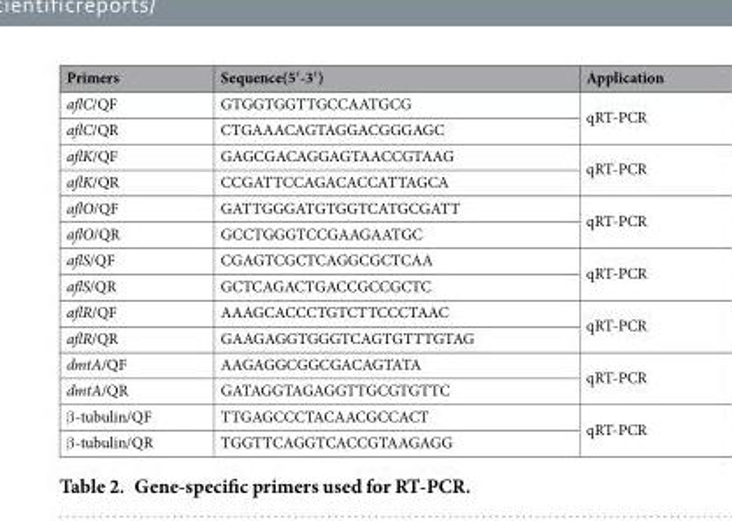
<table><thead><tr><td>Primers</td><td>Sequence(5′ -3′ )</td><td>Application</td></tr></thead><tbody><tr><td>aflC/QF</td><td>GTGGTGGTTGCCAATGCG</td><td rowspan="2">qRT-PCR</td></tr><tr><td>aflC/QR</td><td>CTGAAACAGTAGGACGGGAGC</td></tr><tr><td>aflK/QF</td><td>GAGCGACAGGAGTAACCGTAAG</td><td rowspan="2">qRT-PCR</td></tr><tr><td>aflK/QR</td><td>CCGATTCCAGACACCATTAGCA</td></tr><tr><td>aflO/QF</td><td>GATTGGGATGTGGTCATGCGATT</td><td rowspan="2">qRT-PCR</td></tr><tr><td>aflO/QR</td><td>GCCTGGGTCCGAAGAATGC</td></tr><tr><td>aflS/QF</td><td>CGAGTCGCTCAGGCGCTCAA</td><td rowspan="2">qRT-PCR</td></tr><tr><td>aflS/QR</td><td>GCTCAGACTGACCGCCGCTC</td></tr><tr><td>aflR/QF</td><td>AAAGCACCCTGTCTTCCCTAAC</td><td rowspan="2">qRT-PCR</td></tr><tr><td>aflR/QR</td><td>GAAGAGGTGGGTCAGTGTTTGTAG</td></tr><tr><td>dmtA/QF</td><td>AAGAGGCGGCGACAGTATA</td><td rowspan="2">qRT-PCR</td></tr><tr><td>dmtA/QR</td><td>GATAGGTAGAGGTTGCGTGTTC</td></tr><tr><td>β -tubulin/QF</td><td>TTGAGCCCTACAACGCCACT</td><td rowspan="2">qRT-PCR</td></tr><tr><td>β -tubulin/QR</td><td>TGGTTCAGGTCACCGTAAGAGG</td></tr></tbody></table>